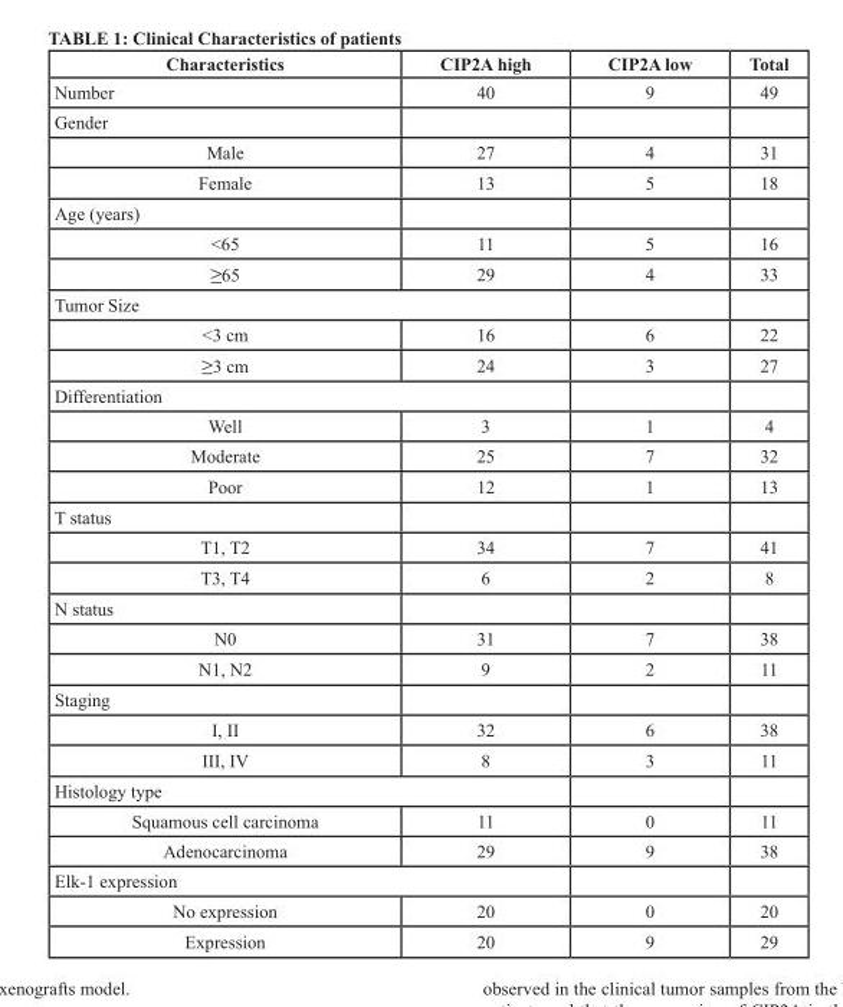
<table><thead><tr><td>Characteristics</td><td>CIP2A high</td><td>CIP2A low</td><td>Total</td></tr></thead><tbody><tr><td>Number</td><td>40</td><td>9</td><td>49</td></tr><tr><td colspan="4">Gender</td></tr><tr><td>Male</td><td>27</td><td>4</td><td>31</td></tr><tr><td>Female</td><td>13</td><td>5</td><td>18</td></tr><tr><td colspan="4">Age (years)</td></tr><tr><td>&lt;65</td><td>11</td><td>5</td><td>16</td></tr><tr><td>≥65</td><td>29</td><td>4</td><td>33</td></tr><tr><td colspan="4">Tumor Size</td></tr><tr><td>&lt;3 cm</td><td>16</td><td>6</td><td>22</td></tr><tr><td>≥3 cm</td><td>24</td><td>3</td><td>27</td></tr><tr><td colspan="4">Differentiation</td></tr><tr><td>Well</td><td>3</td><td>1</td><td>4</td></tr><tr><td>Moderate</td><td>25</td><td>7</td><td>32</td></tr><tr><td>Poor</td><td>12</td><td>1</td><td>13</td></tr><tr><td colspan="4">T status</td></tr><tr><td>T1, T2</td><td>34</td><td>7</td><td>41</td></tr><tr><td>T3, T4</td><td>6</td><td>2</td><td>8</td></tr><tr><td colspan="4">N status</td></tr><tr><td>N0</td><td>31</td><td>7</td><td>38</td></tr><tr><td>N1, N2</td><td>9</td><td>2</td><td>11</td></tr><tr><td colspan="4">Staging</td></tr><tr><td>I, II</td><td>32</td><td>6</td><td>38</td></tr><tr><td>III, IV</td><td>8</td><td>3</td><td>11</td></tr><tr><td colspan="4">Histology type</td></tr><tr><td>Squamous cell carcinoma</td><td>11</td><td>0</td><td>11</td></tr><tr><td>Adenocarcinoma</td><td>29</td><td>9</td><td>38</td></tr><tr><td colspan="4">Elk-1 expression</td></tr><tr><td>No expression</td><td>20</td><td>0</td><td>20</td></tr><tr><td>Expression</td><td>20</td><td>9</td><td>29</td></tr></tbody></table>